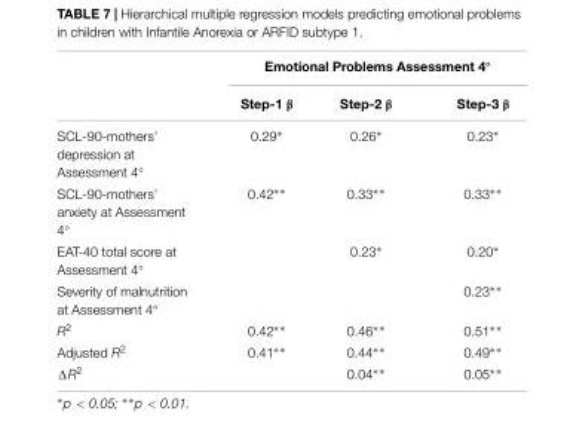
<table><thead><tr><td rowspan="2"></td><td colspan="3">Emotional Problems Assessment 4◦</td></tr><tr><td>Step-1 β</td><td>Step-2 β</td><td>Step-3 β</td></tr></thead><tbody><tr><td>SCL-90-mothers’ depression at Assessment 4◦</td><td>0.29∗</td><td>0.26∗</td><td>0.23∗</td></tr><tr><td>SCL-90-mothers’ anxiety at Assessment 4◦</td><td>0.42∗∗</td><td>0.33∗∗</td><td>0.33∗∗</td></tr><tr><td>EAT-40 total score at Assessment 4◦</td><td></td><td>0.23∗</td><td>0.20∗</td></tr><tr><td>Severity of malnutrition at Assessment 4◦</td><td></td><td></td><td>0.23∗∗</td></tr><tr><td>R<sup>2</sup></td><td>0.42∗∗</td><td>0.46∗∗</td><td>0.51∗∗</td></tr><tr><td>Adjusted R<sup>2</sup></td><td>0.41∗∗</td><td>0.44∗∗</td><td>0.49∗∗</td></tr><tr><td>ΔR<sup>2</sup></td><td></td><td>0.04∗∗</td><td>0.05∗∗</td></tr></tbody></table>